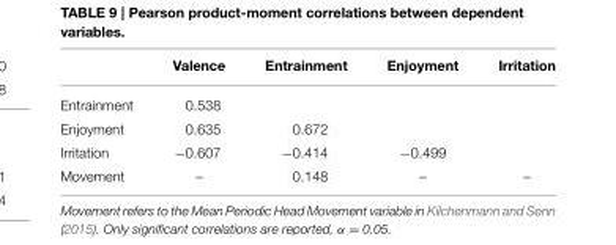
<table><thead><tr><td></td><td>Valence</td><td>Entrainment</td><td>Enjoyment</td><td>Irritation</td></tr></thead><tbody><tr><td>Entrainment</td><td>0.538</td><td></td><td></td><td></td></tr><tr><td>Enjoyment</td><td>0.635</td><td>0.672</td><td></td><td></td></tr><tr><td>Irritation</td><td>−0.607</td><td>−0.414</td><td>−0.499</td><td></td></tr><tr><td>Movement</td><td>–</td><td>0.148</td><td>–</td><td>–</td></tr></tbody></table>